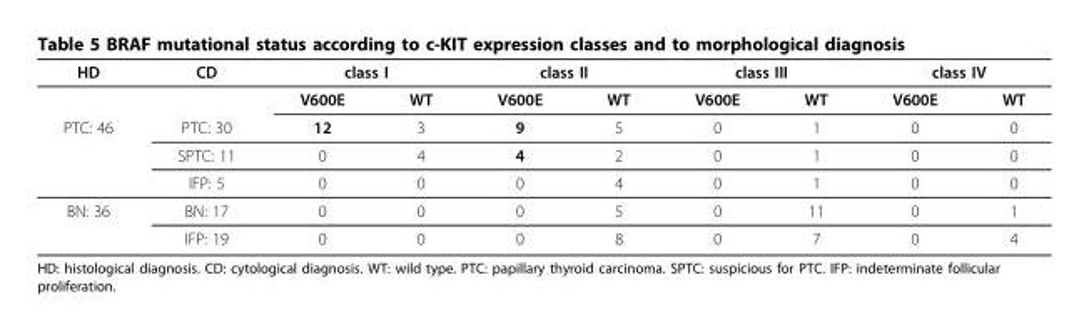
<table><thead><tr><td rowspan="2">HD</td><td rowspan="2">CD</td><td colspan="2">class I</td><td colspan="2">class II</td><td colspan="2">class III</td><td colspan="2">class IV</td></tr><tr><td>V600E</td><td>WT</td><td>V600E</td><td>WT</td><td>V600E</td><td>WT</td><td>V600E</td><td>WT</td></tr></thead><tbody><tr><td rowspan="3">PTC: 46</td><td>PTC: 30</td><td>12</td><td>3</td><td>9</td><td>5</td><td>0</td><td>1</td><td>0</td><td>0</td></tr><tr><td>SPTC: 11</td><td>0</td><td>4</td><td>4</td><td>2</td><td>0</td><td>1</td><td>0</td><td>0</td></tr><tr><td>IFP: 5</td><td>0</td><td>0</td><td>0</td><td>4</td><td>0</td><td>1</td><td>0</td><td>0</td></tr><tr><td rowspan="2">BN: 36</td><td>BN: 17</td><td>0</td><td>0</td><td>0</td><td>5</td><td>0</td><td>11</td><td>0</td><td>1</td></tr><tr><td>IFP: 19</td><td>0</td><td>0</td><td>0</td><td>8</td><td>0</td><td>7</td><td>0</td><td>4</td></tr></tbody></table>